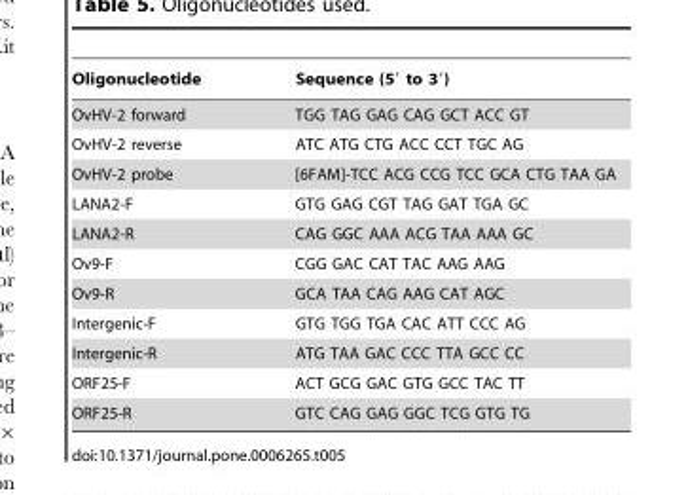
<table><thead><tr><td>Oligonucleotide</td><td>Sequence (5′ to 3′)</td></tr></thead><tbody><tr><td>OvHV-2 forward</td><td>TGG TAG GAG CAG GCT ACC GT</td></tr><tr><td>OvHV-2 reverse</td><td>ATC ATG CTG ACC CCT TGC AG</td></tr><tr><td>OvHV-2 probe</td><td>[6FAM]-TCC ACG CCG TCC GCA CTG TAA GA</td></tr><tr><td>LANA2-F</td><td>GTG GAG CGT TAG GAT TGA GC</td></tr><tr><td>LANA2-R</td><td>CAG GGC AAA ACG TAA AAA GC</td></tr><tr><td>Ov9-F</td><td>CGG GAC CAT TAC AAG AAG</td></tr><tr><td>Ov9-R</td><td>GCA TAA CAG AAG CAT AGC</td></tr><tr><td>Intergenic-F</td><td>GTG TGG TGA CAC ATT CCC AG</td></tr><tr><td>Intergenic-R</td><td>ATG TAA GAC CCC TTA GCC CC</td></tr><tr><td>ORF25-F</td><td>ACT GCG GAC GTG GCC TAC TT</td></tr><tr><td>ORF25-R</td><td>GTC CAG GAG GGC TCG GTG TG</td></tr></tbody></table>